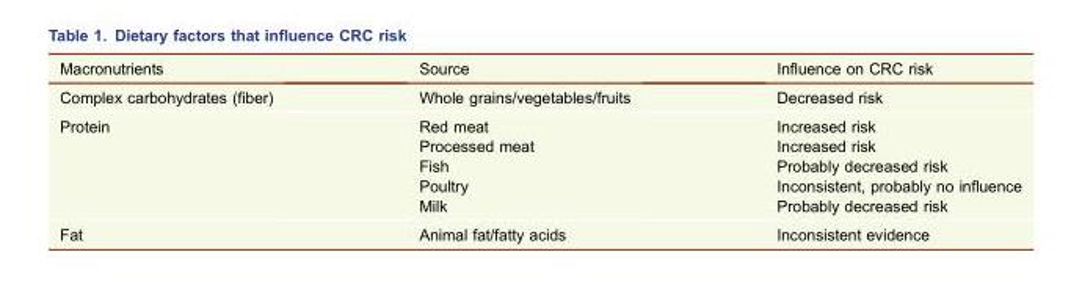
<table><thead><tr><td>Macronutrients</td><td>Source</td><td>Influence on CRC risk</td></tr></thead><tbody><tr><td>Complex carbohydrates (fiber)</td><td>Whole grains/vegetables/fruits</td><td>Decreased risk</td></tr><tr><td>Protein</td><td>Red meat Processed meat Fish Poultry Milk</td><td>Increased risk Increased risk Probably decreased risk Inconsistent, probably no influence Probably decreased risk</td></tr><tr><td>Fat</td><td>Animal fat/fatty acids</td><td>Inconsistent evidence</td></tr></tbody></table>